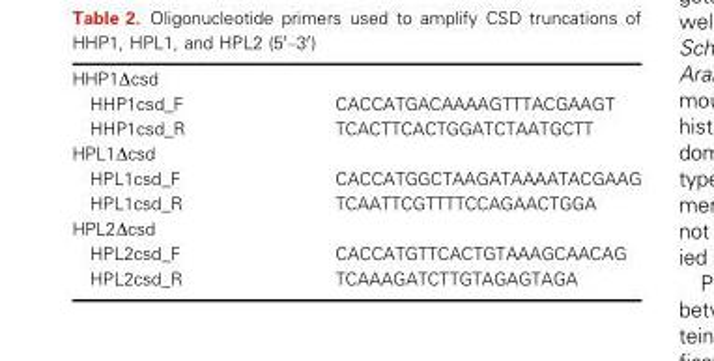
<table><tbody><tr><td colspan="2">HHP1Δcsd</td></tr><tr><td>HHP1csd_F</td><td>CACCATGACAAAAGTTTACGAAGT</td></tr><tr><td>HHP1csd_R</td><td>TCACTTCACTGGATCTAATGCTT</td></tr><tr><td colspan="2">HPL1Δcsd</td></tr><tr><td>HPL1csd_F</td><td>CACCATGGCTAAGATAAAATACGAAG</td></tr><tr><td>HPL1csd_R</td><td>TCAATTCGTTTTCCAGAACTGGA</td></tr><tr><td colspan="2">HPL2Δcsd</td></tr><tr><td>HPL2csd_F</td><td>CACCATGTTCACTGTAAAGCAACAG</td></tr><tr><td>HPL2csd_R</td><td>TCAAAGATCTTGTAGAGTAGA</td></tr></tbody></table>